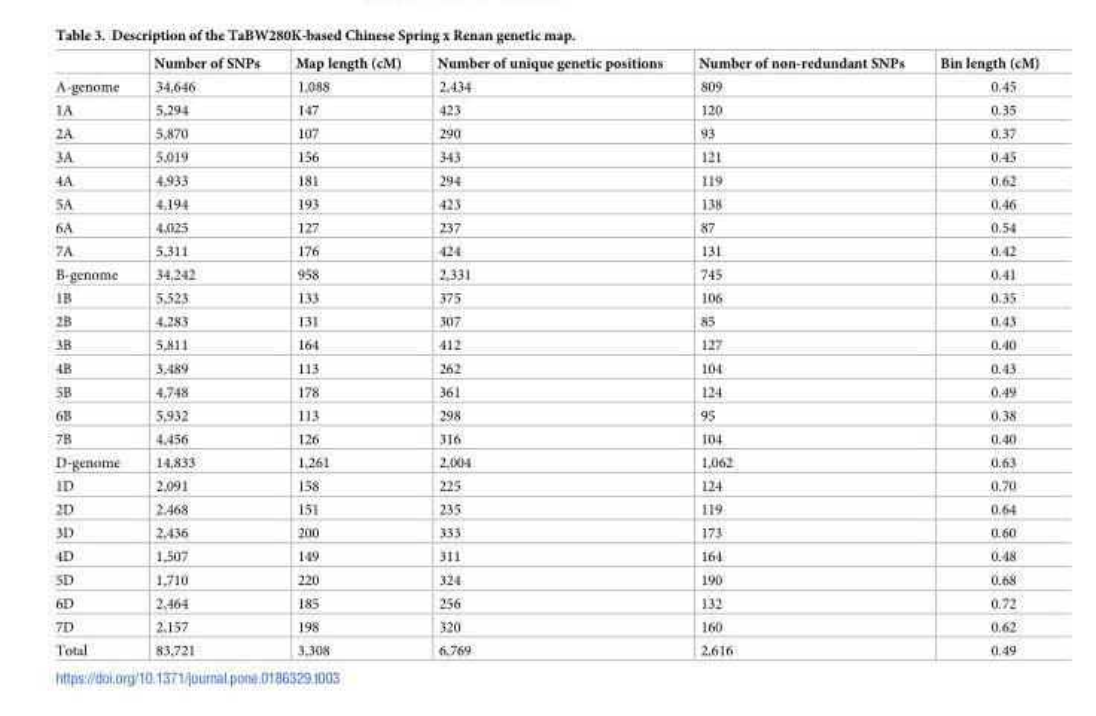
<table><thead><tr><td></td><td>Number of SNPs</td><td>Map length (cM)</td><td>Number of unique genetic positions</td><td>Number of non-redundant SNPs</td><td>Bin length (cM)</td></tr></thead><tbody><tr><td>A-genome</td><td>34,646</td><td>1,088</td><td>2,434</td><td>809</td><td>0.45</td></tr><tr><td>1A</td><td>5,294</td><td>147</td><td>423</td><td>120</td><td>0.35</td></tr><tr><td>2A</td><td>5,870</td><td>107</td><td>290</td><td>93</td><td>0.37</td></tr><tr><td>3A</td><td>5,019</td><td>156</td><td>343</td><td>121</td><td>0.45</td></tr><tr><td>4A</td><td>4,933</td><td>181</td><td>294</td><td>119</td><td>0.62</td></tr><tr><td>5A</td><td>4,194</td><td>193</td><td>423</td><td>138</td><td>0.46</td></tr><tr><td>6A</td><td>4,025</td><td>127</td><td>237</td><td>87</td><td>0.54</td></tr><tr><td>7A</td><td>5,311</td><td>176</td><td>424</td><td>131</td><td>0.42</td></tr><tr><td>B-genome</td><td>34,242</td><td>958</td><td>2,331</td><td>745</td><td>0.41</td></tr><tr><td>1B</td><td>5,523</td><td>133</td><td>375</td><td>106</td><td>0.35</td></tr><tr><td>2B</td><td>4,283</td><td>131</td><td>307</td><td>85</td><td>0.43</td></tr><tr><td>3B</td><td>5,811</td><td>164</td><td>412</td><td>127</td><td>0.40</td></tr><tr><td>4B</td><td>3,489</td><td>113</td><td>262</td><td>104</td><td>0.43</td></tr><tr><td>5B</td><td>4,748</td><td>178</td><td>361</td><td>124</td><td>0.49</td></tr><tr><td>6B</td><td>5,932</td><td>113</td><td>298</td><td>95</td><td>0.38</td></tr><tr><td>7B</td><td>4,456</td><td>126</td><td>316</td><td>104</td><td>0.40</td></tr><tr><td>D-genome</td><td>14,833</td><td>1,261</td><td>2,004</td><td>1,062</td><td>0.63</td></tr><tr><td>1D</td><td>2,091</td><td>158</td><td>225</td><td>124</td><td>0.70</td></tr><tr><td>2D</td><td>2,468</td><td>151</td><td>235</td><td>119</td><td>0.64</td></tr><tr><td>3D</td><td>2,436</td><td>200</td><td>333</td><td>173</td><td>0.60</td></tr><tr><td>4D</td><td>1,507</td><td>149</td><td>311</td><td>164</td><td>0.48</td></tr><tr><td>5D</td><td>1,710</td><td>220</td><td>324</td><td>190</td><td>0.68</td></tr><tr><td>6D</td><td>2,464</td><td>185</td><td>256</td><td>132</td><td>0.72</td></tr><tr><td>7D</td><td>2,157</td><td>198</td><td>320</td><td>160</td><td>0.62</td></tr><tr><td>Total</td><td>83,721</td><td>3,308</td><td>6,769</td><td>2,616</td><td>0.49</td></tr></tbody></table>